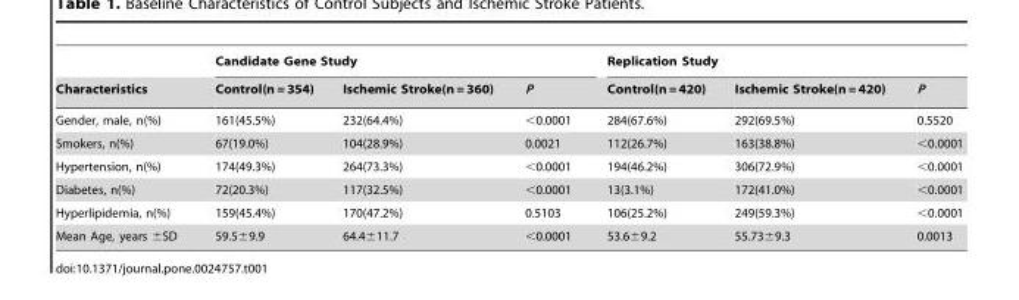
<table><thead><tr><td rowspan="2">Characteristics</td><td colspan="3">Candidate Gene Study</td><td colspan="3">Replication Study</td></tr><tr><td>Control(n = 354)</td><td>Ischemic Stroke(n = 360)</td><td>P</td><td>Control(n = 420)</td><td>Ischemic Stroke(n = 420)</td><td>P</td></tr></thead><tbody><tr><td>Gender, male, n(%)</td><td>161(45.5%)</td><td>232(64.4%)</td><td>&lt;0.0001</td><td>284(67.6%)</td><td>292(69.5%)</td><td>0.5520</td></tr><tr><td>Smokers, n(%)</td><td>67(19.0%)</td><td>104(28.9%)</td><td>0.0021</td><td>112(26.7%)</td><td>163(38.8%)</td><td>&lt;0.0001</td></tr><tr><td>Hypertension, n(%)</td><td>174(49.3%)</td><td>264(73.3%)</td><td>&lt;0.0001</td><td>194(46.2%)</td><td>306(72.9%)</td><td>&lt;0.0001</td></tr><tr><td>Diabetes, n(%)</td><td>72(20.3%)</td><td>117(32.5%)</td><td>&lt;0.0001</td><td>13(3.1%)</td><td>172(41.0%)</td><td>&lt;0.0001</td></tr><tr><td>Hyperlipidemia, n(%)</td><td>159(45.4%)</td><td>170(47.2%)</td><td>0.5103</td><td>106(25.2%)</td><td>249(59.3%)</td><td>&lt;0.0001</td></tr><tr><td>Mean Age, years ±SD</td><td>59.5±9.9</td><td>64.4±11.7</td><td>&lt;0.0001</td><td>53.6±9.2</td><td>55.73±9.3</td><td>0.0013</td></tr></tbody></table>